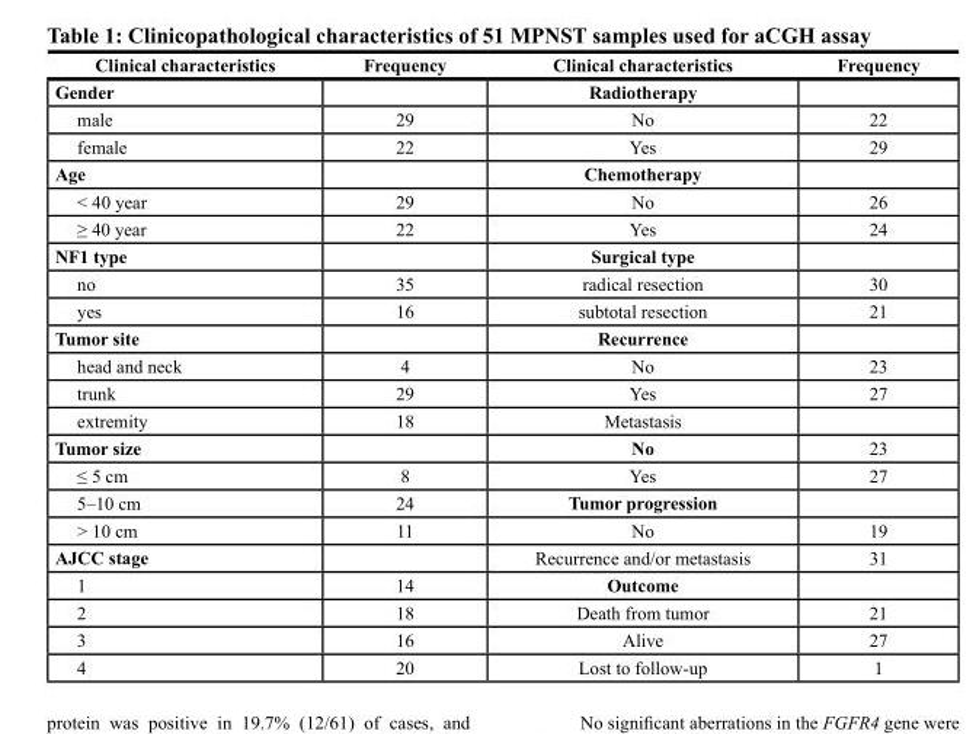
<table><thead><tr><td>Clinical characteristics</td><td>Frequency</td><td>Clinical characteristics</td><td>Frequency</td></tr></thead><tbody><tr><td>Gender</td><td></td><td>Radiotherapy</td><td></td></tr><tr><td>male</td><td>29</td><td>No</td><td>22</td></tr><tr><td>female</td><td>22</td><td>Yes</td><td>29</td></tr><tr><td>Age</td><td></td><td>Chemotherapy</td><td></td></tr><tr><td>&lt; 40 year</td><td>29</td><td>No</td><td>26</td></tr><tr><td>≥ 40 year</td><td>22</td><td>Yes</td><td>24</td></tr><tr><td>NF1 type</td><td></td><td>Surgical type</td><td></td></tr><tr><td>no</td><td>35</td><td>radical resection</td><td>30</td></tr><tr><td>yes</td><td>16</td><td>subtotal resection</td><td>21</td></tr><tr><td>Tumor site</td><td></td><td>Recurrence</td><td></td></tr><tr><td>head and neck</td><td>4</td><td>No</td><td>23</td></tr><tr><td>trunk</td><td>29</td><td>Yes</td><td>27</td></tr><tr><td>extremity</td><td>18</td><td>Metastasis</td><td></td></tr><tr><td>Tumor size</td><td></td><td>No</td><td>23</td></tr><tr><td>≤ 5 cm</td><td>8</td><td>Yes</td><td>27</td></tr><tr><td>5–10 cm</td><td>24</td><td>Tumor progression</td><td></td></tr><tr><td>&gt; 10 cm</td><td>11</td><td>No</td><td>19</td></tr><tr><td>AJCC stage</td><td></td><td>Recurrence and/or metastasis</td><td>31</td></tr><tr><td>1</td><td>14</td><td>Outcome</td><td></td></tr><tr><td>2</td><td>18</td><td>Death from tumor</td><td>21</td></tr><tr><td>3</td><td>16</td><td>Alive</td><td>27</td></tr><tr><td>4</td><td>20</td><td>Lost to follow‑up</td><td>1</td></tr></tbody></table>